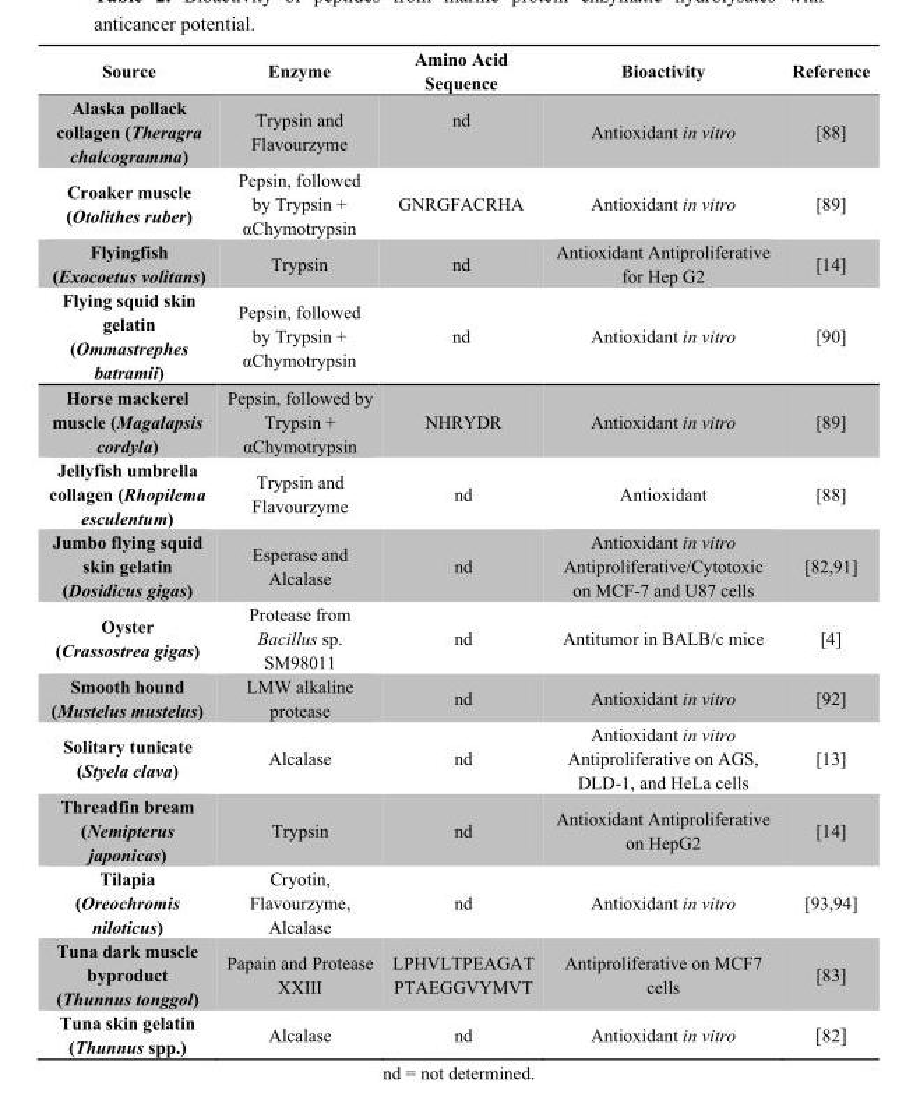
<table><thead><tr><td>Source</td><td>Enzyme</td><td>Amino Acid Sequence</td><td>Bioactivity</td><td>Reference</td></tr></thead><tbody><tr><td>Alaska pollack collagen (Theragra chalcogramma)</td><td>Trypsin and Flavourzyme</td><td>nd</td><td>Antioxidant in vitro</td><td>[88]</td></tr><tr><td>Croaker muscle (Otolithes ruber)</td><td>Pepsin, followed by Trypsin + αChymotrypsin</td><td>GNRGFACRHA</td><td>Antioxidant in vitro</td><td>[89]</td></tr><tr><td>Flyingfish (Exocoetus volitans)</td><td>Trypsin</td><td>nd</td><td>Antioxidant Antiproliferative for Hep G2</td><td>[14]</td></tr><tr><td>Flying squid skin gelatin (Ommastrephes batramii)</td><td>Pepsin, followed by Trypsin + αChymotrypsin</td><td>nd</td><td>Antioxidant in vitro</td><td>[90]</td></tr><tr><td>Horse mackerel muscle (Magalapsis cordyla)</td><td>Pepsin, followed by Trypsin + αChymotrypsin</td><td>NHRYDR</td><td>Antioxidant in vitro</td><td>[89]</td></tr><tr><td>Jellyfish umbrella collagen (Rhopilema esculentum)</td><td>Trypsin and Flavourzyme</td><td>nd</td><td>Antioxidant</td><td>[88]</td></tr><tr><td>Jumbo flying squid skin gelatin (Dosidicus gigas)</td><td>Esperase and Alcalase</td><td>nd</td><td>Antioxidant in vitro Antiproliferative/Cytotoxic on MCF-7 and U87 cells</td><td>[82,91]</td></tr><tr><td>Oyster (Crassostrea gigas)</td><td>Protease from Bacillus sp. SM98011</td><td>nd</td><td>Antitumor in BALB/c mice</td><td>[4]</td></tr><tr><td>Smooth hound (Mustelus mustelus)</td><td>LMW alkaline protease</td><td>nd</td><td>Antioxidant in vitro</td><td>[92]</td></tr><tr><td>Solitary tunicate (Styela clava)</td><td>Alcalase</td><td>nd</td><td>Antioxidant in vitro Antiproliferative on AGS, DLD-1, and HeLa cells</td><td>[13]</td></tr><tr><td>Threadfin bream (Nemipterus japonicas)</td><td>Trypsin</td><td>nd</td><td>Antioxidant Antiproliferative on HepG2</td><td>[14]</td></tr><tr><td>Tilapia (Oreochromis niloticus)</td><td>Cryotin, Flavourzyme, Alcalase</td><td>nd</td><td>Antioxidant in vitro</td><td>[93,94]</td></tr><tr><td>Tuna dark muscle byproduct (Thunnus tonggol)</td><td>Papain and Protease XXIII</td><td>LPHVLTPEAGAT PTAEGGVYMVT</td><td>Antiproliferative on MCF7 cells</td><td>[83]</td></tr><tr><td>Tuna skin gelatin (Thunnus spp.)</td><td>Alcalase</td><td>nd</td><td>Antioxidant in vitro</td><td>[82]</td></tr></tbody></table>